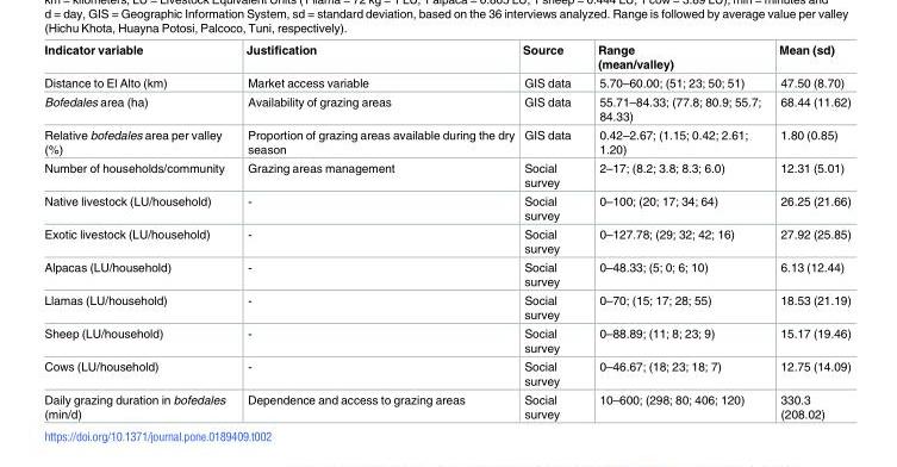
<table><thead><tr><td>Indicator variable</td><td>Justification</td><td>Source</td><td>Range (mean/valley)</td><td>Mean (sd)</td></tr></thead><tbody><tr><td>Distance to El Alto (km)</td><td>Market access variable</td><td>GIS data</td><td>5.70–60.00; (51; 23; 50; 51)</td><td>47.50 (8.70)</td></tr><tr><td>Bofedales area (ha)</td><td>Availability of grazing areas</td><td>GIS data</td><td>55.71–84.33; (77.8; 80.9; 55.7; 84.33)</td><td>68.44 (11.62)</td></tr><tr><td>Relative bofedales area per valley (%)</td><td>Proportion of grazing areas available during the dry season</td><td>GIS data</td><td>0.42–2.67; (1.15; 0.42; 2.61; 1.20)</td><td>1.80 (0.85)</td></tr><tr><td>Number of households/community</td><td>Grazing areas management</td><td>Social survey</td><td>2–17; (8.2; 3.8; 8.3; 6.0)</td><td>12.31 (5.01)</td></tr><tr><td>Native livestock (LU/household)</td><td>-</td><td>Social survey</td><td>0–100; (20; 17; 34; 64)</td><td>26.25 (21.66)</td></tr><tr><td>Exotic livestock (LU/household)</td><td>-</td><td>Social survey</td><td>0–127.78; (29; 32; 42; 16)</td><td>27.92 (25.85)</td></tr><tr><td>Alpacas (LU/household)</td><td>-</td><td>Social survey</td><td>0–48.33; (5; 0; 6; 10)</td><td>6.13 (12.44)</td></tr><tr><td>Llamas (LU/household)</td><td>-</td><td>Social survey</td><td>0–70; (15; 17; 28; 55)</td><td>18.53 (21.19)</td></tr><tr><td>Sheep (LU/household)</td><td>-</td><td>Social survey</td><td>0–88.89; (11; 8; 23; 9)</td><td>15.17 (19.46)</td></tr><tr><td>Cows (LU/household)</td><td>-</td><td>Social survey</td><td>0–46.67; (18; 23; 18; 7)</td><td>12.75 (14.09)</td></tr><tr><td>Daily grazing duration in bofedales (min/d)</td><td>Dependence and access to grazing areas</td><td>Social survey</td><td>10–600; (298; 80; 406; 120)</td><td>330.3 (208.02)</td></tr></tbody></table>